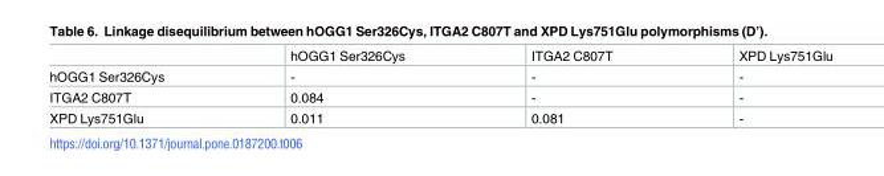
<table><thead><tr><td></td><td>hOGG1 Ser326Cys</td><td>ITGA2 C807T</td><td>XPD Lys751Glu</td></tr></thead><tbody><tr><td>hOGG1 Ser326Cys</td><td>-</td><td>-</td><td>-</td></tr><tr><td>ITGA2 C807T</td><td>0.084</td><td>-</td><td>-</td></tr><tr><td>XPD Lys751Glu</td><td>0.011</td><td>0.081</td><td>-</td></tr></tbody></table>